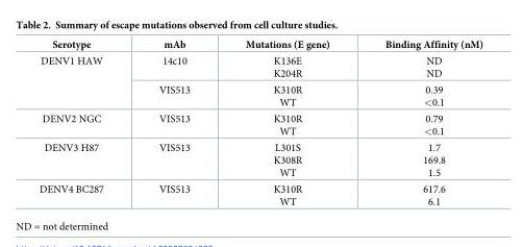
<table><thead><tr><td>Serotype</td><td>mAb</td><td>Mutations (E gene)</td><td>Binding Affinity (nM)</td></tr></thead><tbody><tr><td rowspan="2">DENV1 HAW</td><td>14c10</td><td>K136E K204R</td><td>ND ND</td></tr><tr><td>VIS513</td><td>K310R WT</td><td>0.39 &lt;0.1</td></tr><tr><td>DENV2 NGC</td><td>VIS513</td><td>K310R WT</td><td>0.79 &lt;0.1</td></tr><tr><td>DENV3 H87</td><td>VIS513</td><td>L301S K308R WT</td><td>1.7 169.8 1.5</td></tr><tr><td>DENV4 BC287</td><td>VIS513</td><td>K310R WT</td><td>617.6 6.1</td></tr></tbody></table>